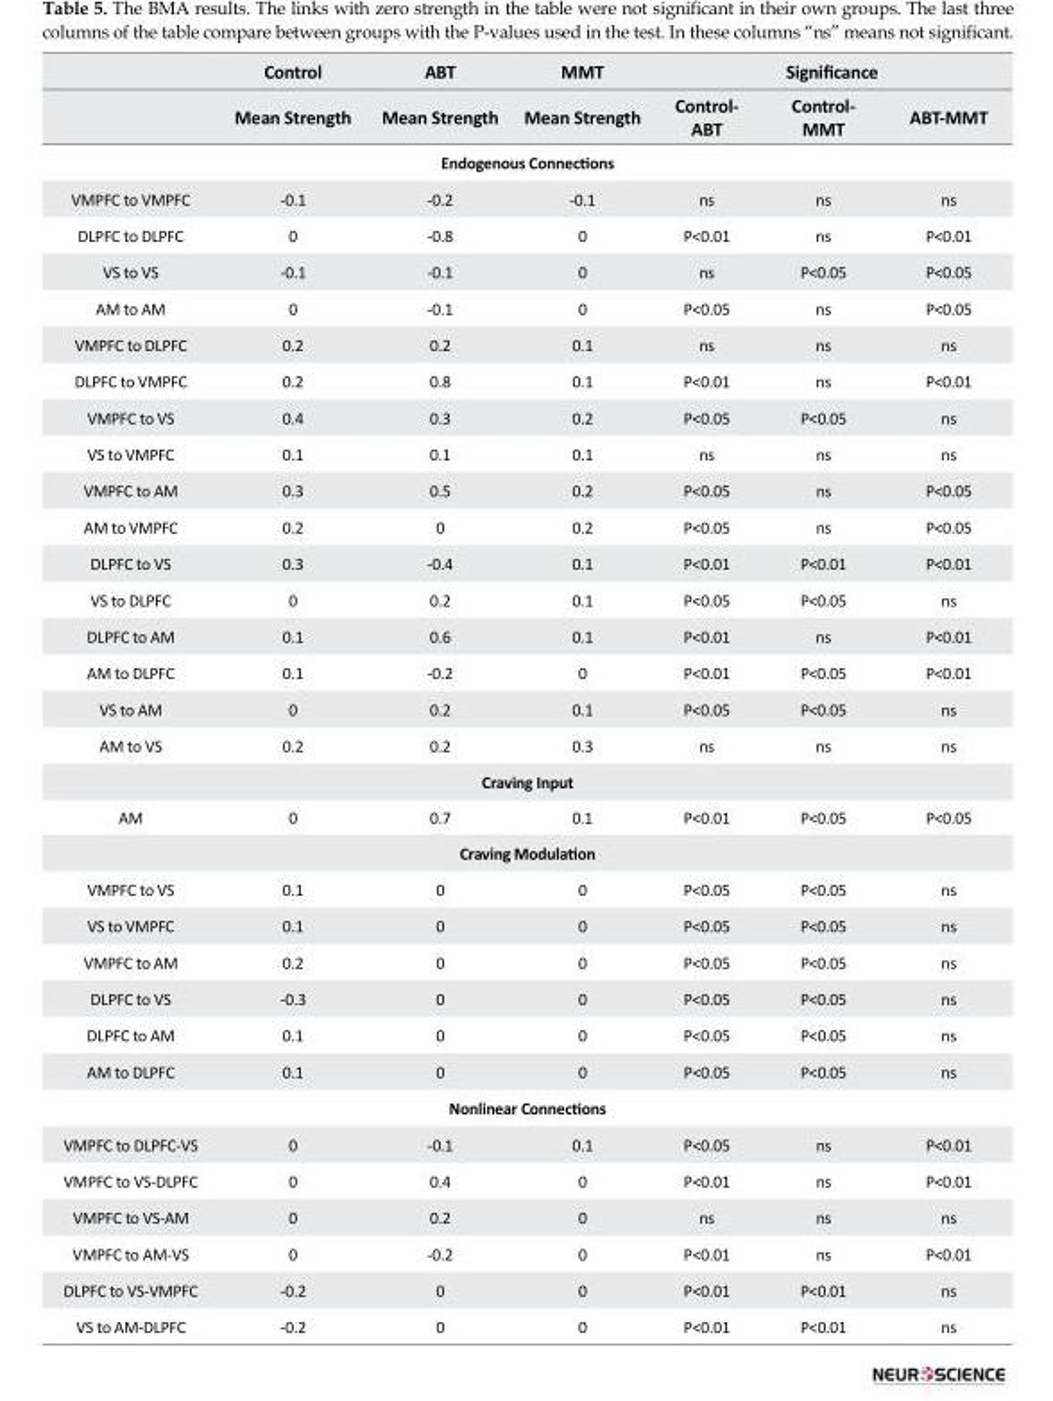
<table><thead><tr><td rowspan="2"></td><td rowspan="2">Control Mean Strength</td><td rowspan="2">ABT Mean Strength</td><td rowspan="2">MMT Mean Strength</td><td colspan="3">Significance</td></tr><tr><td>Control- ABT</td><td>Control- MMT</td><td>ABT-MMT</td></tr></thead><tbody><tr><td colspan="7">Endogenous Connections</td></tr><tr><td>VMPFC to VMPFC</td><td>-0.1</td><td>-0.2</td><td>-0.1</td><td>ns</td><td>ns</td><td>ns</td></tr><tr><td>DLPFC to DLPFC</td><td>0</td><td>-0.8</td><td>0</td><td>P&lt;0.01</td><td>ns</td><td>P&lt;0.01</td></tr><tr><td>VS to VS</td><td>-0.1</td><td>-0.1</td><td>0</td><td>ns</td><td>P&lt;0.05</td><td>P&lt;0.05</td></tr><tr><td>AM to AM</td><td>0</td><td>-0.1</td><td>0</td><td>P&lt;0.05</td><td>ns</td><td>P&lt;0.05</td></tr><tr><td>VMPFC to DLPFC</td><td>0.2</td><td>0.2</td><td>0.1</td><td>ns</td><td>ns</td><td>ns</td></tr><tr><td>DLPFC to VMPFC</td><td>0.2</td><td>0.8</td><td>0.1</td><td>P&lt;0.01</td><td>ns</td><td>P&lt;0.01</td></tr><tr><td>VMPFC to VS</td><td>0.4</td><td>0.3</td><td>0.2</td><td>P&lt;0.05</td><td>P&lt;0.05</td><td>ns</td></tr><tr><td>VS to VMPFC</td><td>0.1</td><td>0.1</td><td>0.1</td><td>ns</td><td>ns</td><td>ns</td></tr><tr><td>VMPFC to AM</td><td>0.3</td><td>0.5</td><td>0.2</td><td>P&lt;0.05</td><td>ns</td><td>P&lt;0.05</td></tr><tr><td>AM to VMPFC</td><td>0.2</td><td>0</td><td>0.2</td><td>P&lt;0.05</td><td>ns</td><td>P&lt;0.05</td></tr><tr><td>DLPFC to VS</td><td>0.3</td><td>-0.4</td><td>0.1</td><td>P&lt;0.01</td><td>P&lt;0.01</td><td>P&lt;0.01</td></tr><tr><td>VS to DLPFC</td><td>0</td><td>0.2</td><td>0.1</td><td>P&lt;0.05</td><td>P&lt;0.05</td><td>ns</td></tr><tr><td>DLPFC to AM</td><td>0.1</td><td>0.6</td><td>0.1</td><td>P&lt;0.01</td><td>ns</td><td>P&lt;0.01</td></tr><tr><td>AM to DLPFC</td><td>0.1</td><td>-0.2</td><td>0</td><td>P&lt;0.01</td><td>P&lt;0.05</td><td>P&lt;0.01</td></tr><tr><td>VS to AM</td><td>0</td><td>0.2</td><td>0.1</td><td>P&lt;0.05</td><td>P&lt;0.05</td><td>ns</td></tr><tr><td>AM to VS</td><td>0.2</td><td>0.2</td><td>0.3</td><td>ns</td><td>ns</td><td>ns</td></tr><tr><td colspan="7">Craving Input</td></tr><tr><td>AM</td><td>0</td><td>0.7</td><td>0.1</td><td>P&lt;0.01</td><td>P&lt;0.05</td><td>P&lt;0.05</td></tr><tr><td colspan="7">Craving Modulation</td></tr><tr><td>VMPFC to VS</td><td>0.1</td><td>0</td><td>0</td><td>P&lt;0.05</td><td>P&lt;0.05</td><td>ns</td></tr><tr><td>VS to VMPFC</td><td>0.1</td><td>0</td><td>0</td><td>P&lt;0.05</td><td>P&lt;0.05</td><td>ns</td></tr><tr><td>VMPFC to AM</td><td>0.2</td><td>0</td><td>0</td><td>P&lt;0.05</td><td>P&lt;0.05</td><td>ns</td></tr><tr><td>DLPFC to VS</td><td>-0.3</td><td>0</td><td>0</td><td>P&lt;0.05</td><td>P&lt;0.05</td><td>ns</td></tr><tr><td>DLPFC to AM</td><td>0.1</td><td>0</td><td>0</td><td>P&lt;0.05</td><td>P&lt;0.05</td><td>ns</td></tr><tr><td>AM to DLPFC</td><td>0.1</td><td>0</td><td>0</td><td>P&lt;0.05</td><td>P&lt;0.05</td><td>ns</td></tr><tr><td colspan="7">Nonlinear Connections</td></tr><tr><td>VMPFC to DLPFC-VS</td><td>0</td><td>-0.1</td><td>0.1</td><td>P&lt;0.05</td><td>ns</td><td>P&lt;0.01</td></tr><tr><td>VMPFC to VS-DLPFC</td><td>0</td><td>0.4</td><td>0</td><td>P&lt;0.01</td><td>ns</td><td>P&lt;0.01</td></tr><tr><td>VMPFC to VS-AM</td><td>0</td><td>0.2</td><td>0</td><td>ns</td><td>ns</td><td>ns</td></tr><tr><td>VMPFC to AM-VS</td><td>0</td><td>-0.2</td><td>0</td><td>P&lt;0.01</td><td>ns</td><td>P&lt;0.01</td></tr><tr><td>DLPFC to VS-VMPFC</td><td>-0.2</td><td>0</td><td>0</td><td>P&lt;0.01</td><td>P&lt;0.01</td><td>ns</td></tr><tr><td>VS to AM-DLPFC</td><td>-0.2</td><td>0</td><td>0</td><td>P&lt;0.01</td><td>P&lt;0.01</td><td>ns</td></tr></tbody></table>